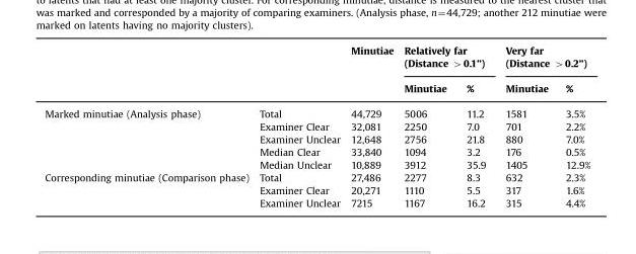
<table><thead><tr><td rowspan="3"></td><td rowspan="3"></td><td rowspan="3">Minutiae</td><td rowspan="2" colspan="2">Relatively far (Distance &gt;0.1”)</td><td rowspan="2" colspan="2">Very far (Distance &gt;0.2”)</td></tr><tr></tr><tr><td>Minutiae</td><td>%</td><td>Minutiae</td><td>%</td></tr></thead><tbody><tr><td rowspan="5">Marked minutiae (Analysis phase)</td><td>Total</td><td>44,729</td><td>5006</td><td>11.2</td><td>1581</td><td>3.5%</td></tr><tr><td>Examiner Clear</td><td>32,081</td><td>2250</td><td>7.0</td><td>701</td><td>2.2%</td></tr><tr><td>Examiner Unclear</td><td>12,648</td><td>2756</td><td>21.8</td><td>880</td><td>7.0%</td></tr><tr><td>Median Clear</td><td>33,840</td><td>1094</td><td>3.2</td><td>176</td><td>0.5%</td></tr><tr><td>Median Unclear</td><td>10,889</td><td>3912</td><td>35.9</td><td>1405</td><td>12.9%</td></tr><tr><td rowspan="3">Corresponding minutiae (Comparison phase)</td><td>Total</td><td>27,486</td><td>2277</td><td>8.3</td><td>632</td><td>2.3%</td></tr><tr><td>Examiner Clear</td><td>20,271</td><td>1110</td><td>5.5</td><td>317</td><td>1.6%</td></tr><tr><td>Examiner Unclear</td><td>7215</td><td>1167</td><td>16.2</td><td>315</td><td>4.4%</td></tr></tbody></table>